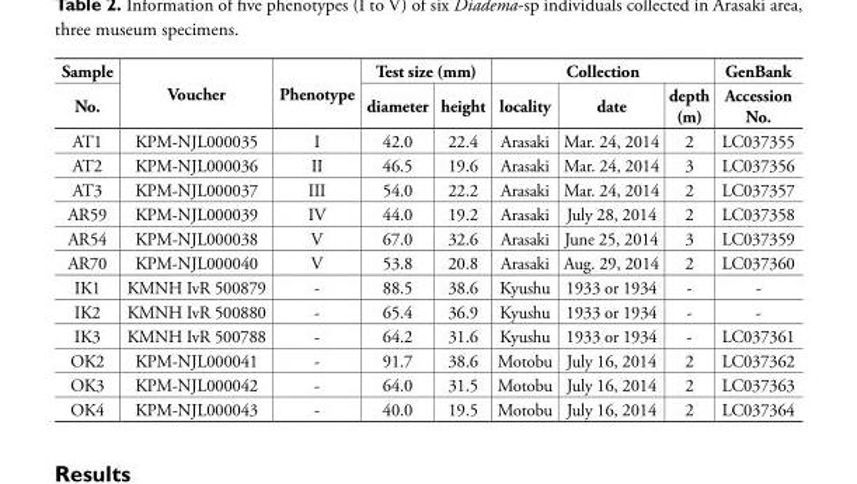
<table><thead><tr><td rowspan="2">Sample No.</td><td rowspan="2">Voucher</td><td rowspan="2">Phenotype</td><td colspan="2">Test size (mm)</td><td colspan="3">Collection</td><td rowspan="2">GenBank Accession No.</td></tr><tr><td>diameter</td><td>height</td><td>locality</td><td>date</td><td>depth (m)</td></tr></thead><tbody><tr><td>AT1</td><td>KPM-NJL000035</td><td>I</td><td>42.0</td><td>22.4</td><td>Arasaki</td><td>Mar. 24, 2014</td><td>2</td><td>LC037355</td></tr><tr><td>AT2</td><td>KPM-NJL000036</td><td>II</td><td>46.5</td><td>19.6</td><td>Arasaki</td><td>Mar. 24, 2014</td><td>3</td><td>LC037356</td></tr><tr><td>AT3</td><td>KPM-NJL000037</td><td>III</td><td>54.0</td><td>22.2</td><td>Arasaki</td><td>Mar. 24, 2014</td><td>2</td><td>LC037357</td></tr><tr><td>AR59</td><td>KPM-NJL000039</td><td>IV</td><td>44.0</td><td>19.2</td><td>Arasaki</td><td>July 28, 2014</td><td>2</td><td>LC037358</td></tr><tr><td>AR54</td><td>KPM-NJL000038</td><td>V</td><td>67.0</td><td>32.6</td><td>Arasaki</td><td>June 25, 2014</td><td>3</td><td>LC037359</td></tr><tr><td>AR70</td><td>KPM-NJL000040</td><td>V</td><td>53.8</td><td>20.8</td><td>Arasaki</td><td>Aug. 29, 2014</td><td>2</td><td>LC037360</td></tr><tr><td>IK1</td><td>KMNH IvR 500879</td><td>-</td><td>88.5</td><td>38.6</td><td>Kyushu</td><td>1933 or 1934</td><td>-</td><td>-</td></tr><tr><td>IK2</td><td>KMNH IvR 500880</td><td>-</td><td>65.4</td><td>36.9</td><td>Kyushu</td><td>1933 or 1934</td><td>-</td><td>-</td></tr><tr><td>IK3</td><td>KMNH IvR 500788</td><td>-</td><td>64.2</td><td>31.6</td><td>Kyushu</td><td>1933 or 1934</td><td>-</td><td>LC037361</td></tr><tr><td>OK2</td><td>KPM-NJL000041</td><td>-</td><td>91.7</td><td>38.6</td><td>Motobu</td><td>July 16, 2014</td><td>2</td><td>LC037362</td></tr><tr><td>OK3</td><td>KPM-NJL000042</td><td>-</td><td>64.0</td><td>31.5</td><td>Motobu</td><td>July 16, 2014</td><td>2</td><td>LC037363</td></tr><tr><td>OK4</td><td>KPM-NJL000043</td><td>-</td><td>40.0</td><td>19.5</td><td>Motobu</td><td>July 16, 2014</td><td>2</td><td>LC037364</td></tr></tbody></table>